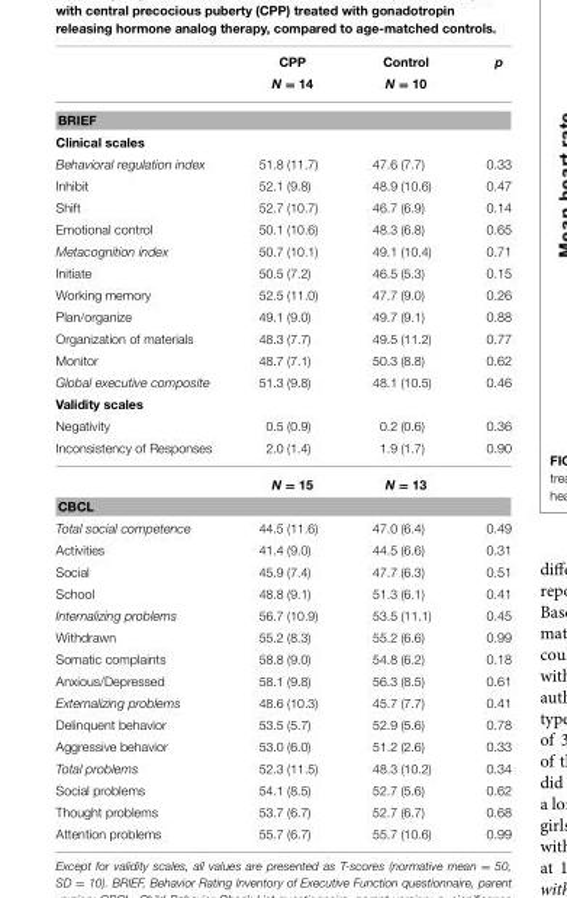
<table><thead><tr><td></td><td>CPP N = 14</td><td>Control N = 10</td><td>p</td></tr></thead><tbody><tr><td colspan="4">BRIEF</td></tr><tr><td colspan="4">Clinical scales</td></tr><tr><td>Behavioral regulation index</td><td>51.8 (11.7)</td><td>47.6 (7.7)</td><td>0.33</td></tr><tr><td>Inhibit</td><td>52.1 (9.8)</td><td>48.9 (10.6)</td><td>0.47</td></tr><tr><td>Shift</td><td>52.7 (10.7)</td><td>46.7 (6.9)</td><td>0.14</td></tr><tr><td>Emotional control</td><td>50.1 (10.6)</td><td>48.3 (6.8)</td><td>0.65</td></tr><tr><td>Metacognition index</td><td>50.7 (10.1)</td><td>49.1 (10.4)</td><td>0.71</td></tr><tr><td>Initiate</td><td>50.5 (7.2)</td><td>46.5 (5.3)</td><td>0.15</td></tr><tr><td>Working memory</td><td>52.5 (11.0)</td><td>47.7 (9.0)</td><td>0.26</td></tr><tr><td>Plan/organize</td><td>49.1 (9.0)</td><td>49.7 (9.1)</td><td>0.88</td></tr><tr><td>Organization of materials</td><td>48.3 (7.7)</td><td>49.5 (11.2)</td><td>0.77</td></tr><tr><td>Monitor</td><td>48.7 (7.1)</td><td>50.3 (8.8)</td><td>0.62</td></tr><tr><td>Global executive composite</td><td>51.3 (9.8)</td><td>48.1 (10.5)</td><td>0.46</td></tr><tr><td colspan="4">Validity scales</td></tr><tr><td>Negativity</td><td>0.5 (0.9)</td><td>0.2 (0.6)</td><td>0.36</td></tr><tr><td rowspan="2">Inconsistency of Responses</td><td>2.0 (1.4)</td><td>1.9 (1.7)</td><td>0.90</td></tr><tr><td>N = 15</td><td>N = 13</td><td></td></tr><tr><td colspan="4">CBCL</td></tr><tr><td>Total social competence</td><td>44.5 (11.6)</td><td>47.0 (6.4)</td><td>0.49</td></tr><tr><td>Activities</td><td>41.4 (9.0)</td><td>44.5 (6.6)</td><td>0.31</td></tr><tr><td>Social</td><td>45.9 (7.4)</td><td>47.7 (6.3)</td><td>0.51</td></tr><tr><td>School</td><td>48.8 (9.1)</td><td>51.3 (6.1)</td><td>0.41</td></tr><tr><td>Internalizing problems</td><td>56.7 (10.9)</td><td>53.5 (11.1)</td><td>0.45</td></tr><tr><td>Withdrawn</td><td>55.2 (8.3)</td><td>55.2 (6.6)</td><td>0.99</td></tr><tr><td>Somatic complaints</td><td>58.8 (9.0)</td><td>54.8 (6.2)</td><td>0.18</td></tr><tr><td>Anxious/Depressed</td><td>58.1 (9.8)</td><td>56.3 (8.5)</td><td>0.61</td></tr><tr><td>Externalizing problems</td><td>48.6 (10.3)</td><td>45.7 (7.7)</td><td>0.41</td></tr><tr><td>Delinquent behavior</td><td>53.5 (5.7)</td><td>52.9 (5.6)</td><td>0.78</td></tr><tr><td>Aggressive behavior</td><td>53.0 (6.0)</td><td>51.2 (2.6)</td><td>0.33</td></tr><tr><td>Total problems</td><td>52.3 (11.5)</td><td>48.3 (10.2)</td><td>0.34</td></tr><tr><td>Social problems</td><td>54.1 (8.5)</td><td>52.7 (5.6)</td><td>0.62</td></tr><tr><td>Thought problems</td><td>53.7 (6.7)</td><td>52.7 (6.7)</td><td>0.68</td></tr><tr><td>Attention problems</td><td>55.7 (6.7)</td><td>55.7 (10.6)</td><td>0.99</td></tr></tbody></table>